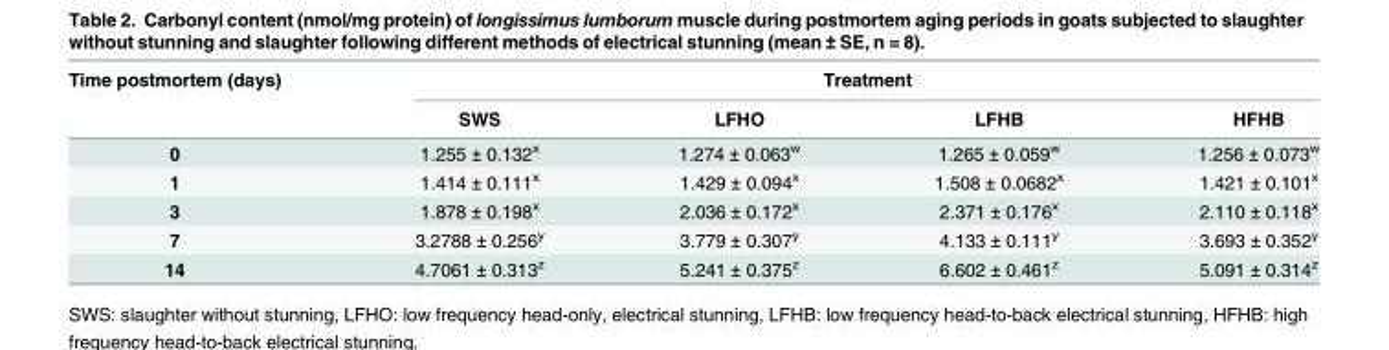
<table><thead><tr><td rowspan="2">Time postmortem (days)</td><td colspan="4">Treatment</td></tr><tr><td>SWS</td><td>LFHO</td><td>LFHB</td><td>HFHB</td></tr></thead><tbody><tr><td>0</td><td>1.255 ± 0.132<sup>x</sup></td><td>1.274 ± 0.063<sup>w</sup></td><td>1.265 ± 0.059<sup>w</sup></td><td>1.256 ± 0.073<sup>w</sup></td></tr><tr><td>1</td><td>1.414 ± 0.111<sup>x</sup></td><td>1.429 ± 0.094<sup>x</sup></td><td>1.508 ± 0.0682<sup>x</sup></td><td>1.421 ± 0.101<sup>x</sup></td></tr><tr><td>3</td><td>1.878 ± 0.198<sup>x</sup></td><td>2.036 ± 0.172<sup>x</sup></td><td>2.371 ± 0.176<sup>x</sup></td><td>2.110 ± 0.118<sup>x</sup></td></tr><tr><td>7</td><td>3.2788 ± 0.256<sup>y</sup></td><td>3.779 ± 0.307<sup>y</sup></td><td>4.133 ± 0.111<sup>y</sup></td><td>3.693 ± 0.352<sup>y</sup></td></tr><tr><td>14</td><td>4.7061 ± 0.313<sup>z</sup></td><td>5.241 ± 0.375<sup>z</sup></td><td>6.602 ± 0.461<sup>z</sup></td><td>5.091 ± 0.314<sup>z</sup></td></tr></tbody></table>